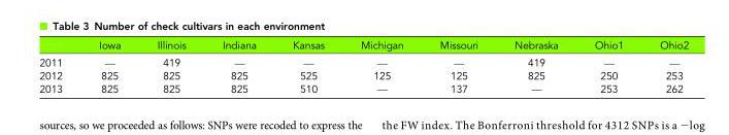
<table><thead><tr><td></td><td>Iowa</td><td>Illinois</td><td>Indiana</td><td>Kansas</td><td>Michigan</td><td>Missouri</td><td>Nebraska</td><td>Ohio1</td><td>Ohio2</td></tr></thead><tbody><tr><td>2011</td><td>—</td><td>419</td><td>—</td><td>—</td><td>—</td><td>—</td><td>419</td><td>—</td><td>—</td></tr><tr><td>2012</td><td>825</td><td>825</td><td>825</td><td>525</td><td>125</td><td>125</td><td>825</td><td>250</td><td>253</td></tr><tr><td>2013</td><td>825</td><td>825</td><td>825</td><td>510</td><td>—</td><td>137</td><td>—</td><td>253</td><td>262</td></tr></tbody></table>